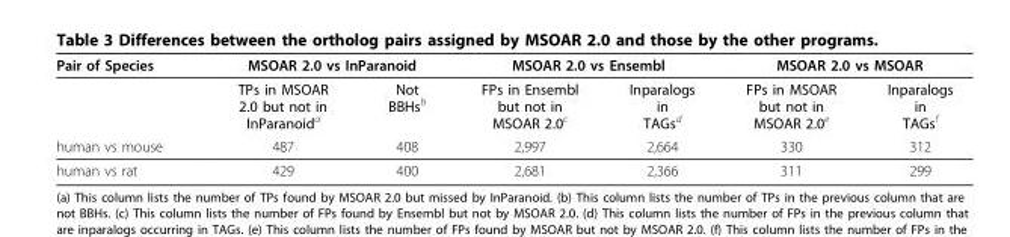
<table><thead><tr><td rowspan="2">Pair of Species</td><td colspan="2">MSOAR 2.0 vs InParanoid</td><td colspan="2">MSOAR 2.0 vs Ensembl</td><td colspan="2">MSOAR 2.0 vs MSOAR</td></tr><tr><td>TPs in MSOAR 2.0 but not in InParanoid<sup>a</sup></td><td>Not BBHs<sup>b</sup></td><td>FPs in Ensembl but not in MSOAR 2.0<sup>c</sup></td><td>Inparalogs in TAGs<sup>d</sup></td><td>FPs in MSOAR but not in MSOAR 2.0<sup>e</sup></td><td>Inparalogs in TAGs<sup>f</sup></td></tr></thead><tbody><tr><td>human vs mouse</td><td>487</td><td>408</td><td>2,997</td><td>2,664</td><td>330</td><td>312</td></tr><tr><td>human vs rat</td><td>429</td><td>400</td><td>2,681</td><td>2,366</td><td>311</td><td>299</td></tr></tbody></table>